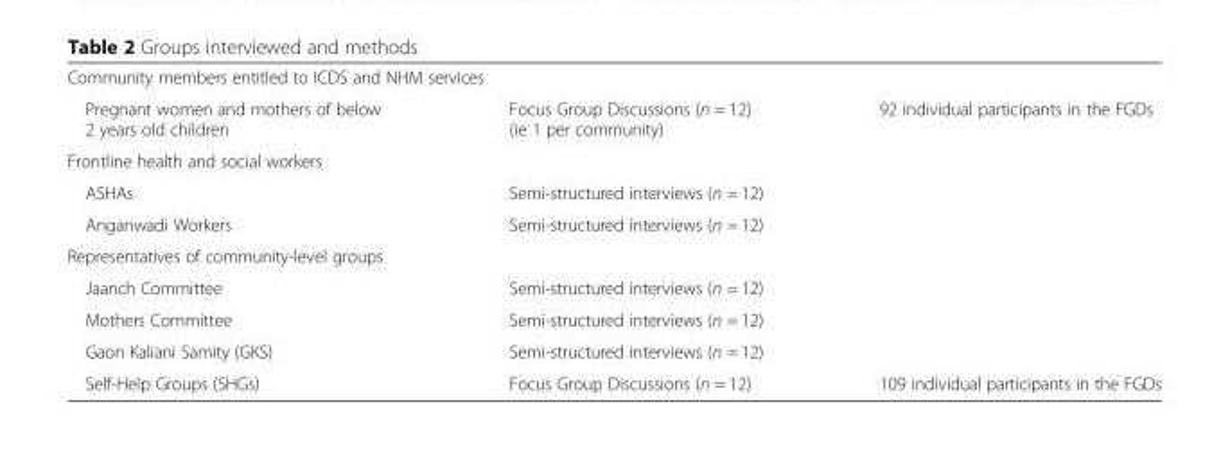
<table><tbody><tr><td colspan="3">Community members entitled to ICDS and NHM services</td></tr><tr><td>Pregnant women and mothers of below 2 years old children</td><td>Focus Group Discussions (n = 12) (ie 1 per community)</td><td>92 individual participants in the FGDs</td></tr><tr><td colspan="3">Frontline health and social workers</td></tr><tr><td>ASHAs</td><td colspan="2">Semi-structured interviews (n = 12)</td></tr><tr><td>Anganwadi Workers</td><td colspan="2">Semi-structured interviews (n = 12)</td></tr><tr><td colspan="3">Representatives of community-level groups</td></tr><tr><td>Jaanch Committee</td><td colspan="2">Semi-structured interviews (n = 12)</td></tr><tr><td>Mothers Committee</td><td colspan="2">Semi-structured interviews (n = 12)</td></tr><tr><td>Gaon Kaliani Samity (GKS)</td><td colspan="2">Semi-structured interviews (n = 12)</td></tr><tr><td>Self-Help Groups (SHGs)</td><td>Focus Group Discussions (n = 12)</td><td>109 individual participants in the FGDs</td></tr></tbody></table>